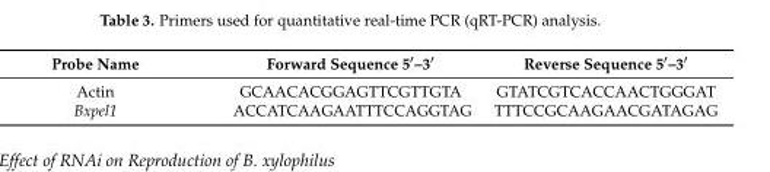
<table><thead><tr><td>Probe Name</td><td>Forward Sequence 5′–3′</td><td>Reverse Sequence 5′–3′</td></tr></thead><tbody><tr><td>Actin</td><td>GCAACACGGAGTTCGTTGTA</td><td>GTATCGTCACCAACTGGGAT</td></tr><tr><td>Bxpel1</td><td>ACCATCAAGAATTTCCAGGTAG</td><td>TTTCCGCAAGAACGATAGAG</td></tr></tbody></table>